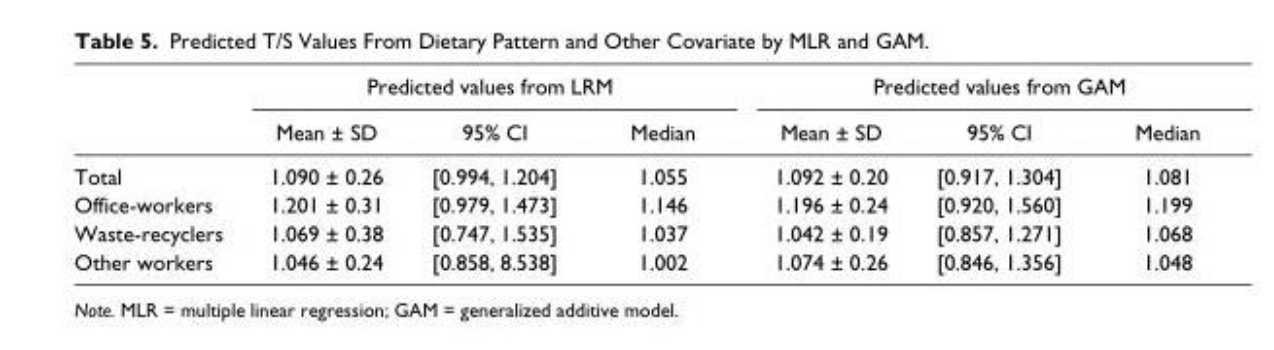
<table><thead><tr><td rowspan="2"></td><td colspan="3">Predicted values from LRM</td><td colspan="3">Predicted values from GAM</td></tr><tr><td>Mean ± SD</td><td>95% CI</td><td>Median</td><td>Mean ± SD</td><td>95% CI</td><td>Median</td></tr></thead><tbody><tr><td>Total</td><td>1.090 ± 0.26</td><td>[0.994, 1.204]</td><td>1.055</td><td>1.092 ± 0.20</td><td>[0.917, 1.304]</td><td>1.081</td></tr><tr><td>Office-workers</td><td>1.201 ± 0.31</td><td>[0.979, 1.473]</td><td>1.146</td><td>1.196 ± 0.24</td><td>[0.920, 1.560]</td><td>1.199</td></tr><tr><td>Waste-recyclers</td><td>1.069 ± 0.38</td><td>[0.747, 1.535]</td><td>1.037</td><td>1.042 ± 0.19</td><td>[0.857, 1.271]</td><td>1.068</td></tr><tr><td>Other workers</td><td>1.046 ± 0.24</td><td>[0.858, 8.538]</td><td>1.002</td><td>1.074 ± 0.26</td><td>[0.846, 1.356]</td><td>1.048</td></tr></tbody></table>